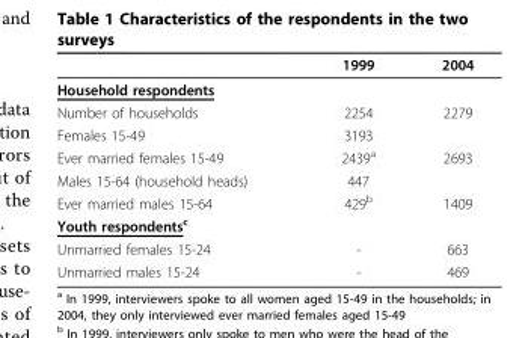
<table><thead><tr><td></td><td>1999</td><td>2004</td></tr></thead><tbody><tr><td colspan="3">Household respondents</td></tr><tr><td>Number of households</td><td>2254</td><td>2279</td></tr><tr><td>Females 15-49</td><td>3193</td><td></td></tr><tr><td>Ever married females 15-49</td><td>2439<sup>a</sup></td><td>2693</td></tr><tr><td>Males 15-64 (household heads)</td><td>447</td><td></td></tr><tr><td>Ever married males 15-64</td><td>429<sup>b</sup></td><td>1409</td></tr><tr><td colspan="3">Youth respondents<sup>c</sup></td></tr><tr><td>Unmarried females 15-24</td><td>-</td><td>663</td></tr><tr><td>Unmarried males 15-24</td><td>-</td><td>469</td></tr></tbody></table>